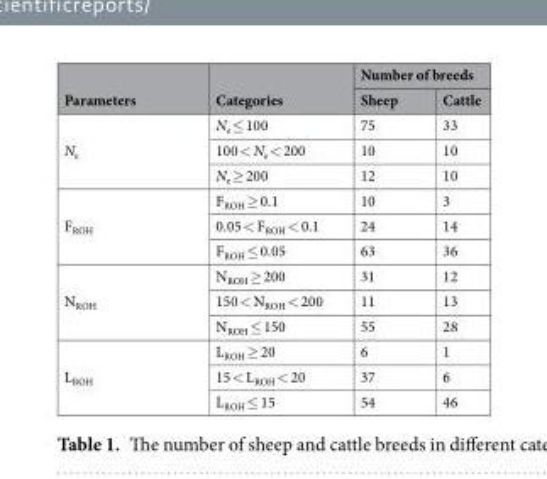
<table><thead><tr><td rowspan="2">Parameters</td><td rowspan="2">Categories</td><td colspan="2">Number of breeds</td></tr><tr><td>Sheep</td><td>Cattle</td></tr></thead><tbody><tr><td rowspan="3">N<sub>e</sub></td><td>N<sub>e</sub> ≤ 100</td><td>75</td><td>33</td></tr><tr><td>100 &lt; N<sub>e</sub> &lt; 200</td><td>10</td><td>10</td></tr><tr><td>N<sub>e</sub> ≥ 200</td><td>12</td><td>10</td></tr><tr><td rowspan="3">F<sub>ROH</sub></td><td>F<sub>ROH</sub> ≥ 0.1</td><td>10</td><td>3</td></tr><tr><td>0.05 &lt; F<sub>ROH</sub> &lt; 0.1</td><td>24</td><td>14</td></tr><tr><td>F<sub>ROH</sub> ≤ 0.05</td><td>63</td><td>36</td></tr><tr><td rowspan="3">N<sub>ROH</sub></td><td>N<sub>ROH</sub> ≥ 200</td><td>31</td><td>12</td></tr><tr><td>150 &lt; N<sub>ROH</sub> &lt; 200</td><td>11</td><td>13</td></tr><tr><td>N<sub>ROH</sub> ≤ 150</td><td>55</td><td>28</td></tr><tr><td rowspan="3">L<sub>ROH</sub></td><td>L<sub>ROH</sub> ≥ 20</td><td>6</td><td>1</td></tr><tr><td>15 &lt; L<sub>ROH</sub> &lt; 20</td><td>37</td><td>6</td></tr><tr><td>L<sub>ROH</sub> ≤ 15</td><td>54</td><td>46</td></tr></tbody></table>